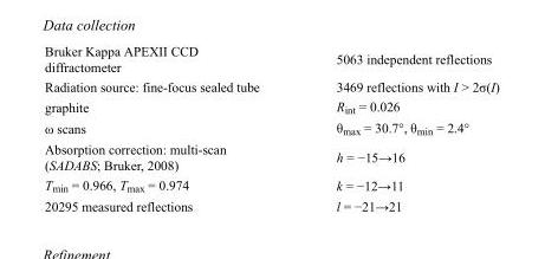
<table><tbody><tr><td>Bruker Kappa APEXII CCD diffractometer</td><td>5063 independent reflections</td></tr><tr><td>Radiation source: fine-focus sealed tube</td><td>3469 reflections with I &gt; 2σ(I)</td></tr><tr><td>graphite</td><td>R<sub>int</sub> = 0.026</td></tr><tr><td>ω scans</td><td>θ<sub>max</sub> = 30.7°, θ<sub>min</sub> = 2.4°</td></tr><tr><td>Absorption correction: multi-scan (SADABS; Bruker, 2008)</td><td>h = −15→16</td></tr><tr><td>T<sub>min</sub> = 0.966, T<sub>max</sub> = 0.974</td><td>k = −12→11</td></tr><tr><td>20295 measured reflections</td><td>l = −21→21</td></tr></tbody></table>